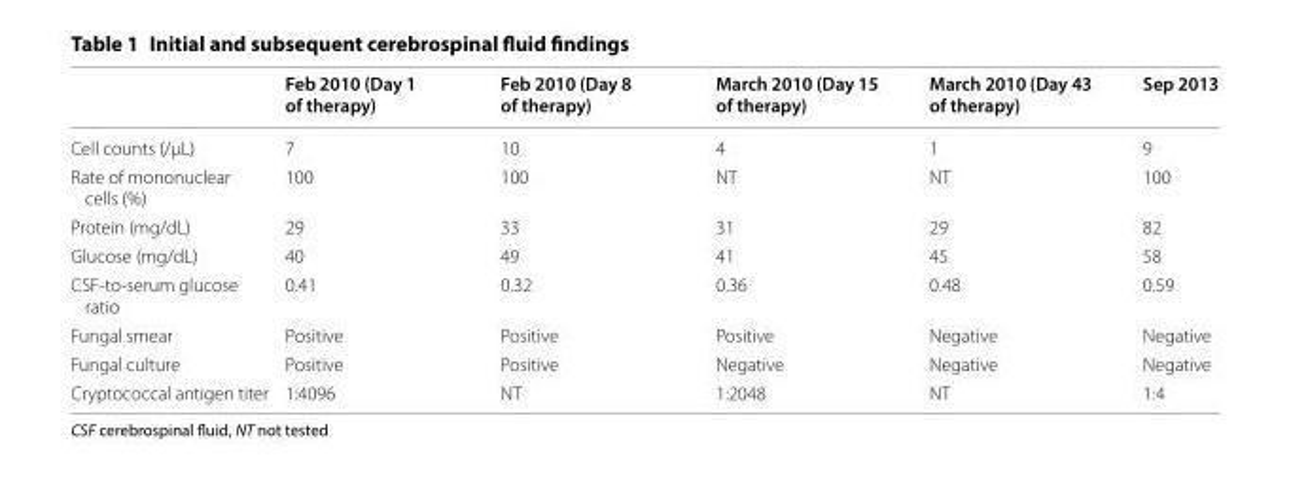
<table><thead><tr><td></td><td>Feb 2010 (Day 1 of therapy)</td><td>Feb 2010 (Day 8 of therapy)</td><td>March 2010 (Day 15 of therapy)</td><td>March 2010 (Day 43 of therapy)</td><td>Sep 2013</td></tr></thead><tbody><tr><td>Cell counts (/µL)</td><td>7</td><td>10</td><td>4</td><td>1</td><td>9</td></tr><tr><td>Rate of mononuclear cells (%)</td><td>100</td><td>100</td><td>NT</td><td>NT</td><td>100</td></tr><tr><td>Protein (mg/dL)</td><td>29</td><td>33</td><td>31</td><td>29</td><td>82</td></tr><tr><td>Glucose (mg/dL)</td><td>40</td><td>49</td><td>41</td><td>45</td><td>58</td></tr><tr><td>CSF‑to‑serum glucose ratio</td><td>0.41</td><td>0.32</td><td>0.36</td><td>0.48</td><td>0.59</td></tr><tr><td>Fungal smear</td><td>Positive</td><td>Positive</td><td>Positive</td><td>Negative</td><td>Negative</td></tr><tr><td>Fungal culture</td><td>Positive</td><td>Positive</td><td>Negative</td><td>Negative</td><td>Negative</td></tr><tr><td>Cryptococcal antigen titer</td><td>1:4096</td><td>NT</td><td>1:2048</td><td>NT</td><td>1:4</td></tr></tbody></table>